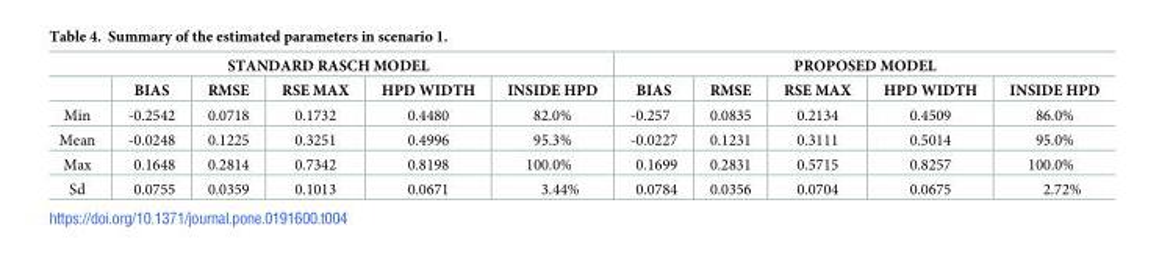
<table><thead><tr><td colspan="6">STANDARD RASCH MODEL</td><td colspan="5">PROPOSED MODEL</td></tr><tr><td></td><td>BIAS</td><td>RMSE</td><td>RSE MAX</td><td>HPD WIDTH</td><td>INSIDE HPD</td><td>BIAS</td><td>RMSE</td><td>RSE MAX</td><td>HPD WIDTH</td><td>INSIDE HPD</td></tr></thead><tbody><tr><td>Min</td><td>-0.2542</td><td>0.0718</td><td>0.1732</td><td>0.4480</td><td>82.0%</td><td>-0.257</td><td>0.0835</td><td>0.2134</td><td>0.4509</td><td>86.0%</td></tr><tr><td>Mean</td><td>-0.0248</td><td>0.1225</td><td>0.3251</td><td>0.4996</td><td>95.3%</td><td>-0.0227</td><td>0.1231</td><td>0.3111</td><td>0.5014</td><td>95.0%</td></tr><tr><td>Max</td><td>0.1648</td><td>0.2814</td><td>0.7342</td><td>0.8198</td><td>100.0%</td><td>0.1699</td><td>0.2831</td><td>0.5715</td><td>0.8257</td><td>100.0%</td></tr><tr><td>Sd</td><td>0.0755</td><td>0.0359</td><td>0.1013</td><td>0.0671</td><td>3.44%</td><td>0.0784</td><td>0.0356</td><td>0.0704</td><td>0.0675</td><td>2.72%</td></tr></tbody></table>